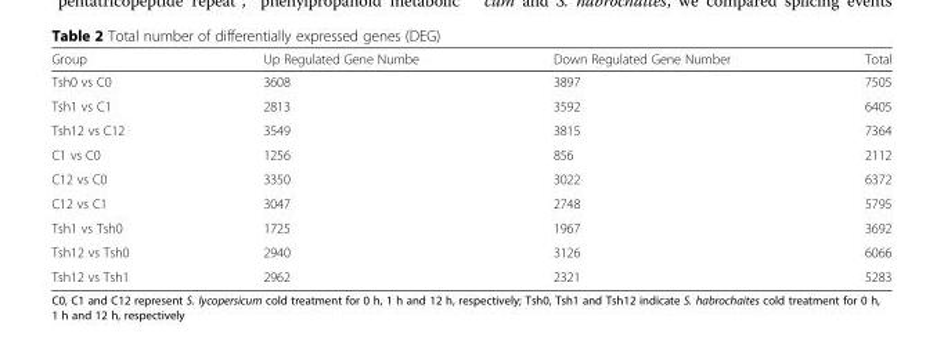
<table><thead><tr><td>Group</td><td>Up Regulated Gene Numbe</td><td>Down Regulated Gene Number</td><td>Total</td></tr></thead><tbody><tr><td>Tsh0 vs C0</td><td>3608</td><td>3897</td><td>7505</td></tr><tr><td>Tsh1 vs C1</td><td>2813</td><td>3592</td><td>6405</td></tr><tr><td>Tsh12 vs C12</td><td>3549</td><td>3815</td><td>7364</td></tr><tr><td>C1 vs C0</td><td>1256</td><td>856</td><td>2112</td></tr><tr><td>C12 vs C0</td><td>3350</td><td>3022</td><td>6372</td></tr><tr><td>C12 vs C1</td><td>3047</td><td>2748</td><td>5795</td></tr><tr><td>Tsh1 vs Tsh0</td><td>1725</td><td>1967</td><td>3692</td></tr><tr><td>Tsh12 vs Tsh0</td><td>2940</td><td>3126</td><td>6066</td></tr><tr><td>Tsh12 vs Tsh1</td><td>2962</td><td>2321</td><td>5283</td></tr></tbody></table>